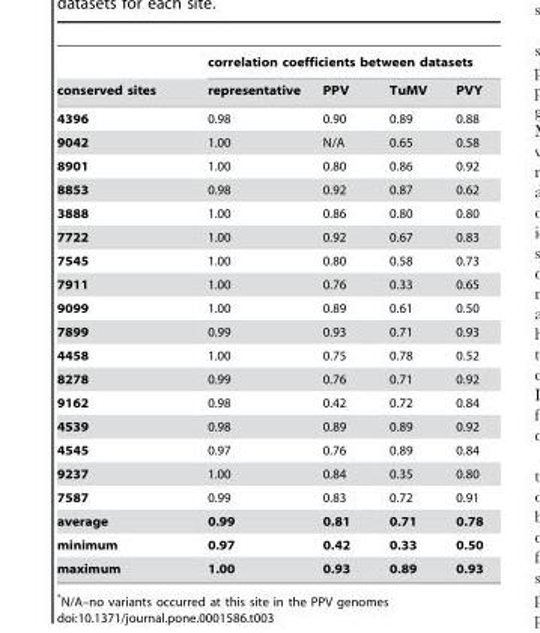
<table><thead><tr><td rowspan="2">conserved sites</td><td colspan="4">correlation coefficients between datasets</td></tr><tr><td>representative</td><td>PPV</td><td>TuMV</td><td>PVY</td></tr></thead><tbody><tr><td>4396</td><td>0.98</td><td>0.90</td><td>0.89</td><td>0.88</td></tr><tr><td>9042</td><td>1.00</td><td>N/A</td><td>0.65</td><td>0.58</td></tr><tr><td>8901</td><td>1.00</td><td>0.80</td><td>0.86</td><td>0.92</td></tr><tr><td>8853</td><td>0.98</td><td>0.92</td><td>0.87</td><td>0.62</td></tr><tr><td>3888</td><td>1.00</td><td>0.86</td><td>0.80</td><td>0.80</td></tr><tr><td>7722</td><td>1.00</td><td>0.92</td><td>0.67</td><td>0.83</td></tr><tr><td>7545</td><td>1.00</td><td>0.80</td><td>0.58</td><td>0.73</td></tr><tr><td>7911</td><td>1.00</td><td>0.76</td><td>0.33</td><td>0.65</td></tr><tr><td>9099</td><td>1.00</td><td>0.89</td><td>0.61</td><td>0.50</td></tr><tr><td>7899</td><td>0.99</td><td>0.93</td><td>0.71</td><td>0.93</td></tr><tr><td>4458</td><td>1.00</td><td>0.75</td><td>0.78</td><td>0.52</td></tr><tr><td>8278</td><td>0.99</td><td>0.76</td><td>0.71</td><td>0.92</td></tr><tr><td>9162</td><td>0.98</td><td>0.42</td><td>0.72</td><td>0.84</td></tr><tr><td>4539</td><td>0.98</td><td>0.89</td><td>0.89</td><td>0.92</td></tr><tr><td>4545</td><td>0.97</td><td>0.76</td><td>0.89</td><td>0.84</td></tr><tr><td>9237</td><td>1.00</td><td>0.84</td><td>0.35</td><td>0.80</td></tr><tr><td>7587</td><td>0.99</td><td>0.83</td><td>0.72</td><td>0.91</td></tr><tr><td>average</td><td>0.99</td><td>0.81</td><td>0.71</td><td>0.78</td></tr><tr><td>minimum</td><td>0.97</td><td>0.42</td><td>0.33</td><td>0.50</td></tr><tr><td>maximum</td><td>1.00</td><td>0.93</td><td>0.89</td><td>0.93</td></tr></tbody></table>